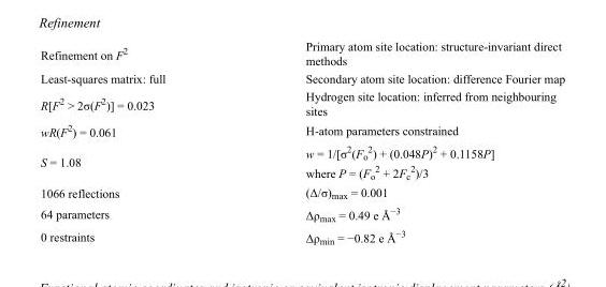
<table><tbody><tr><td>Refinement on F<sup>2</sup></td><td>Primary atom site location: structure-invariant direct methods</td></tr><tr><td>Least-squares matrix: full</td><td>Secondary atom site location: difference Fourier map</td></tr><tr><td>R[F<sup>2</sup> &gt; 2σ(F<sup>2</sup>)] = 0.023</td><td>Hydrogen site location: inferred from neighbouring sites</td></tr><tr><td>wR(F<sup>2</sup>) = 0.061</td><td>H-atom parameters constrained</td></tr><tr><td>S = 1.08</td><td>w = 1/[σ<sup>2</sup>(F<sub>o</sub> <sup>2</sup>) + (0.048P)<sup>2</sup> + 0.1158P] where P = (F<sub>o</sub> <sup>2</sup> + 2F<sub>c</sub> <sup>2</sup>)/3</td></tr><tr><td>1066 reflections</td><td>(Δ/σ)<sub>max</sub> = 0.001</td></tr><tr><td>64 parameters</td><td>Δρ<sub>max</sub> = 0.49 e Å<sup>−3</sup></td></tr><tr><td>0 restraints</td><td>Δρ<sub>min</sub> = −0.82 e Å<sup>−3</sup></td></tr></tbody></table>